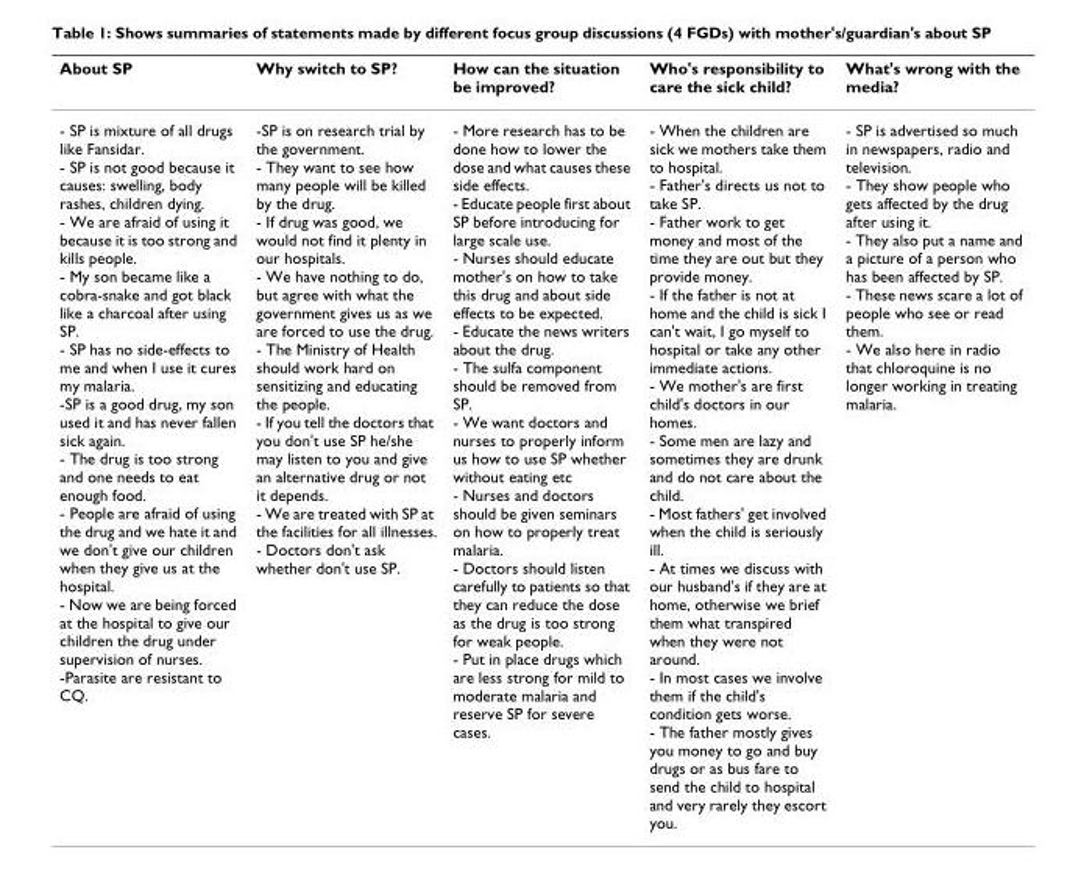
<table><thead><tr><td>About SP</td><td>Why switch to SP?</td><td>How can the situation be improved?</td><td>Who&#x27;s responsibility to care the sick child?</td><td>What&#x27;s wrong with the media?</td></tr></thead><tbody><tr><td>- SP is mixture of all drugs like Fansidar. - SP is not good because it causes: swelling, body rashes, children dying. - We are afraid of using it because it is too strong and kills people. - My son became like a cobra-snake and got black like a charcoal after using SP. - SP has no side-effects to me and when I use it cures my malaria. -SP is a good drug, my son used it and has never fallen sick again. - The drug is too strong and one needs to eat enough food. - People are afraid of using the drug and we hate it and we don&#x27;t give our children when they give us at the hospital. - Now we are being forced at the hospital to give our children the drug under supervision of nurses. -Parasite are resistant to CQ.</td><td>-SP is on research trial by the government. - They want to see how many people will be killed by the drug. - If drug was good, we would not find it plenty in our hospitals. - We have nothing to do, but agree with what the government gives us as we are forced to use the drug. - The Ministry of Health should work hard on sensitizing and educating the people. - If you tell the doctors that you don&#x27;t use SP he/she may listen to you and give an alternative drug or not it depends. - We are treated with SP at the facilities for all illnesses. - Doctors don&#x27;t ask whether don&#x27;t use SP.</td><td>- More research has to be done how to lower the dose and what causes these side effects. - Educate people first about SP before introducing for large scale use. - Nurses should educate mother&#x27;s on how to take this drug and about side effects to be expected. - Educate the news writers about the drug. - The sulfa component should be removed from SP. - We want doctors and nurses to properly inform us how to use SP whether without eating etc - Nurses and doctors should be given seminars on how to properly treat malaria. - Doctors should listen carefully to patients so that they can reduce the dose as the drug is too strong for weak people. - Put in place drugs which are less strong for mild to moderate malaria and reserve SP for severe cases.</td><td>- When the children are sick we mothers take them to hospital. - Father&#x27;s directs us not to take SP. - Father work to get money and most of the time they are out but they provide money. - If the father is not at home and the child is sick I can&#x27;t wait, I go myself to hospital or take any other immediate actions. - We mother&#x27;s are first child&#x27;s doctors in our homes. - Some men are lazy and sometimes they are drunk and do not care about the child. - Most fathers&#x27; get involved when the child is seriously ill. - At times we discuss with our husband&#x27;s if they are at home, otherwise we brief them what transpired when they were not around. - In most cases we involve them if the child&#x27;s condition gets worse. - The father mostly gives you money to go and buy drugs or as bus fare to send the child to hospital and very rarely they escort you.</td><td>- SP is advertised so much in newspapers, radio and television. - They show people who gets affected by the drug after using it. - They also put a name and a picture of a person who has been affected by SP. - These news scare a lot of people who see or read them. - We also here in radio that chloroquine is no longer working in treating malaria.</td></tr></tbody></table>